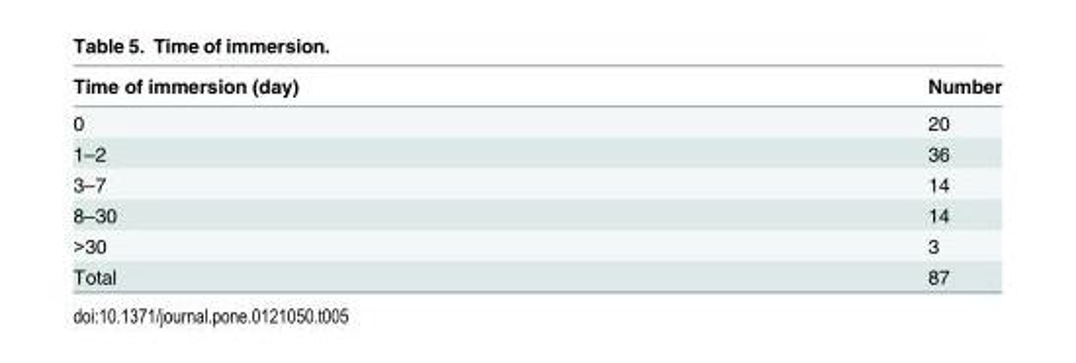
<table><thead><tr><td>Time of immersion (day)</td><td>Number</td></tr></thead><tbody><tr><td>0</td><td>20</td></tr><tr><td>1–2</td><td>36</td></tr><tr><td>3–7</td><td>14</td></tr><tr><td>8–30</td><td>14</td></tr><tr><td>&gt;30</td><td>3</td></tr><tr><td>Total</td><td>87</td></tr></tbody></table>